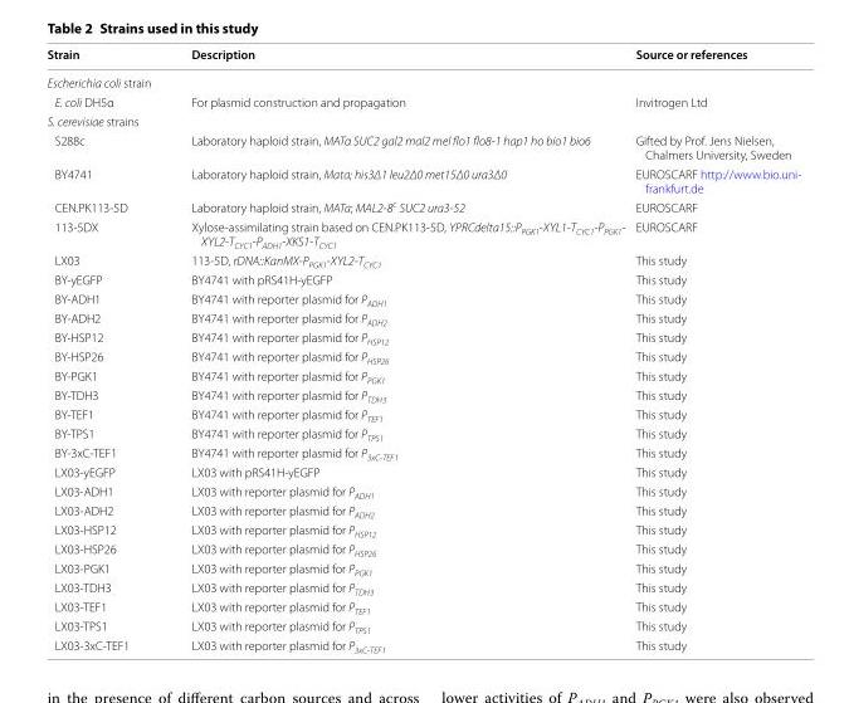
<table><thead><tr><td>Strain</td><td>Description</td><td>Source or references</td></tr></thead><tbody><tr><td colspan="3">Escherichia coli strain</td></tr><tr><td>E. coli DH5α</td><td>For plasmid construction and propagation</td><td>Invitrogen Ltd</td></tr><tr><td colspan="3">S. cerevisiae strains</td></tr><tr><td>S288c</td><td>Laboratory haploid strain, MATα SUC2 gal2 mal2 mel flo1 flo8‑1 hap1 ho bio1 bio6</td><td>Gifted by Prof. Jens Nielsen, Chalmers University, Sweden</td></tr><tr><td>BY4741</td><td>Laboratory haploid strain, Mata; his3Δ1 leu2Δ0 met15Δ0 ura3Δ0</td><td>EUROSCARF http://www.bio.uni‑ frankfurt.de</td></tr><tr><td>CEN.PK113‑5D</td><td>Laboratory haploid strain, MATa; MAL2‑8<sup>c</sup> SUC2 ura3‑52</td><td>EUROSCARF</td></tr><tr><td>113‑5DX</td><td>Xylose‑assimilating strain based on CEN.PK113‑5D, YPRCdelta15::P<sub>PGK1</sub>‑XYL1‑T<sub>CYC1</sub>‑P<sub>PGK1</sub>‑ XYL2‑T<sub>CYC1</sub>‑P<sub>ADH1</sub>‑XKS1‑T<sub>CYC1</sub></td><td>EUROSCARF</td></tr><tr><td>LX03</td><td>113‑5D, rDNA::KanMX‑P<sub>PGK1</sub>‑XYL2‑T<sub>CYC1</sub></td><td>This study</td></tr><tr><td>BY‑yEGFP</td><td>BY4741 with pRS41H‑yEGFP</td><td>This study</td></tr><tr><td>BY‑ADH1</td><td>BY4741 with reporter plasmid for P<sub>ADH1</sub></td><td>This study</td></tr><tr><td>BY‑ADH2</td><td>BY4741 with reporter plasmid for P<sub>ADH2</sub></td><td>This study</td></tr><tr><td>BY‑HSP12</td><td>BY4741 with reporter plasmid for P<sub>HSP12</sub></td><td>This study</td></tr><tr><td>BY‑HSP26</td><td>BY4741 with reporter plasmid for P<sub>HSP26</sub></td><td>This study</td></tr><tr><td>BY‑PGK1</td><td>BY4741 with reporter plasmid for P<sub>PGK1</sub></td><td>This study</td></tr><tr><td>BY‑TDH3</td><td>BY4741 with reporter plasmid for P<sub>TDH3</sub></td><td>This study</td></tr><tr><td>BY‑TEF1</td><td>BY4741 with reporter plasmid for P<sub>TEF1</sub></td><td>This study</td></tr><tr><td>BY‑TPS1</td><td>BY4741 with reporter plasmid for P<sub>TPS1</sub></td><td>This study</td></tr><tr><td>BY‑3xC‑TEF1</td><td>BY4741 with reporter plasmid for P<sub>3xC‑TEF1</sub></td><td>This study</td></tr><tr><td>LX03‑yEGFP</td><td>LX03 with pRS41H‑yEGFP</td><td>This study</td></tr><tr><td>LX03‑ADH1</td><td>LX03 with reporter plasmid for P<sub>ADH1</sub></td><td>This study</td></tr><tr><td>LX03‑ADH2</td><td>LX03 with reporter plasmid for P<sub>ADH2</sub></td><td>This study</td></tr><tr><td>LX03‑HSP12</td><td>LX03 with reporter plasmid for P<sub>HSP12</sub></td><td>This study</td></tr><tr><td>LX03‑HSP26</td><td>LX03 with reporter plasmid for P<sub>HSP26</sub></td><td>This study</td></tr><tr><td>LX03‑PGK1</td><td>LX03 with reporter plasmid for P<sub>PGK1</sub></td><td>This study</td></tr><tr><td>LX03‑TDH3</td><td>LX03 with reporter plasmid for P<sub>TDH3</sub></td><td>This study</td></tr><tr><td>LX03‑TEF1</td><td>LX03 with reporter plasmid for P<sub>TEF1</sub></td><td>This study</td></tr><tr><td>LX03‑TPS1</td><td>LX03 with reporter plasmid for P<sub>TPS1</sub></td><td>This study</td></tr><tr><td>LX03‑3xC‑TEF1</td><td>LX03 with reporter plasmid for P<sub>3xC‑TEF1</sub></td><td>This study</td></tr></tbody></table>